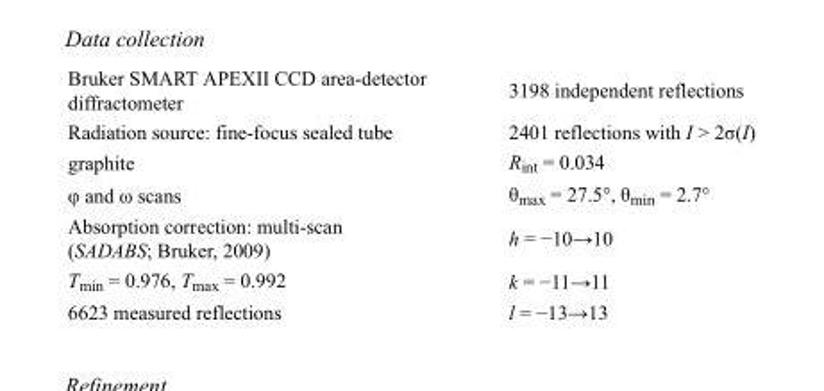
<table><tbody><tr><td>Bruker SMART APEXII CCD area-detector diffractometer</td><td>3198 independent reflections</td></tr><tr><td>Radiation source: fine-focus sealed tube</td><td>2401 reflections with I &gt; 2σ(I)</td></tr><tr><td>graphite</td><td>R<sub>int</sub> = 0.034</td></tr><tr><td>φ and ω scans</td><td>θ<sub>max</sub> = 27.5°, θ<sub>min</sub> = 2.7°</td></tr><tr><td>Absorption correction: multi-scan (SADABS; Bruker, 2009)</td><td>h = −10→10</td></tr><tr><td>T<sub>min</sub> = 0.976, T<sub>max</sub> = 0.992</td><td>k = −11→11</td></tr><tr><td>6623 measured reflections</td><td>l = −13→13</td></tr></tbody></table>